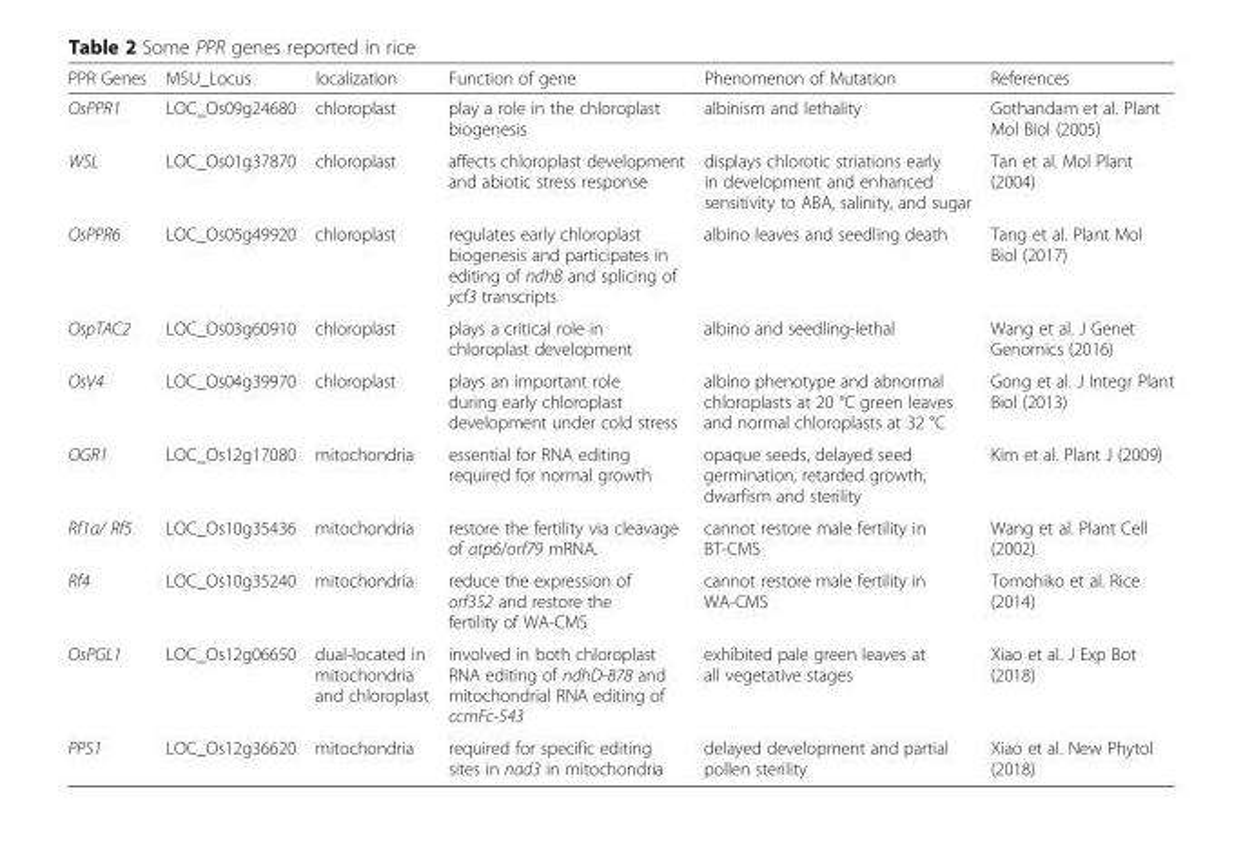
<table><thead><tr><td>PPR Genes</td><td>MSU_Locus</td><td>localization</td><td>Function of gene</td><td>Phenomenon of Mutation</td><td>References</td></tr></thead><tbody><tr><td>OsPPR1</td><td>LOC_Os09g24680</td><td>chloroplast</td><td>play a role in the chloroplast biogenesis</td><td>albinism and lethality</td><td>Gothandam et al. Plant Mol Biol (2005)</td></tr><tr><td>WSL</td><td>LOC_Os01g37870</td><td>chloroplast</td><td>affects chloroplast development and abiotic stress response</td><td>displays chlorotic striations early in development and enhanced sensitivity to ABA, salinity, and sugar</td><td>Tan et al. Mol Plant (2004)</td></tr><tr><td>OsPPR6</td><td>LOC_Os05g49920</td><td>chloroplast</td><td>regulates early chloroplast biogenesis and participates in editing of ndhB and splicing of ycf3 transcripts</td><td>albino leaves and seedling death</td><td>Tang et al. Plant Mol Biol (2017)</td></tr><tr><td>OspTAC2</td><td>LOC_Os03g60910</td><td>chloroplast</td><td>plays a critical role in chloroplast development</td><td>albino and seedling-lethal</td><td>Wang et al. J Genet Genomics (2016)</td></tr><tr><td>OsV4</td><td>LOC_Os04g39970</td><td>chloroplast</td><td>plays an important role during early chloroplast development under cold stress</td><td>albino phenotype and abnormal chloroplasts at 20 °C green leaves and normal chloroplasts at 32 °C</td><td>Gong et al. J Integr Plant Biol (2013)</td></tr><tr><td>OGR1</td><td>LOC_Os12g17080</td><td>mitochondria</td><td>essential for RNA editing required for normal growth</td><td>opaque seeds, delayed seed germination, retarded growth, dwarfism and sterility</td><td>Kim et al. Plant J (2009)</td></tr><tr><td>Rf1a/ Rf5</td><td>LOC_Os10g35436</td><td>mitochondria</td><td>restore the fertility via cleavage of atp6/orf79 mRNA.</td><td>cannot restore male fertility in BT-CMS</td><td>Wang et al. Plant Cell (2002)</td></tr><tr><td>Rf4</td><td>LOC_Os10g35240</td><td>mitochondria</td><td>reduce the expression of orf352 and restore the fertility of WA-CMS</td><td>cannot restore male fertility in WA-CMS</td><td>Tomohiko et al. Rice (2014)</td></tr><tr><td>OsPGL1</td><td>LOC_Os12g06650</td><td>dual-located in mitochondria and chloroplast</td><td>involved in both chloroplast RNA editing of ndhD-878 and mitochondrial RNA editing of ccmFc-543</td><td>exhibited pale green leaves at all vegetative stages</td><td>Xiao et al. J Exp Bot (2018)</td></tr><tr><td>PPS1</td><td>LOC_Os12g36620</td><td>mitochondria</td><td>required for specific editing sites in nad3 in mitochondria</td><td>delayed development and partial pollen sterility</td><td>Xiao et al. New Phytol (2018)</td></tr></tbody></table>